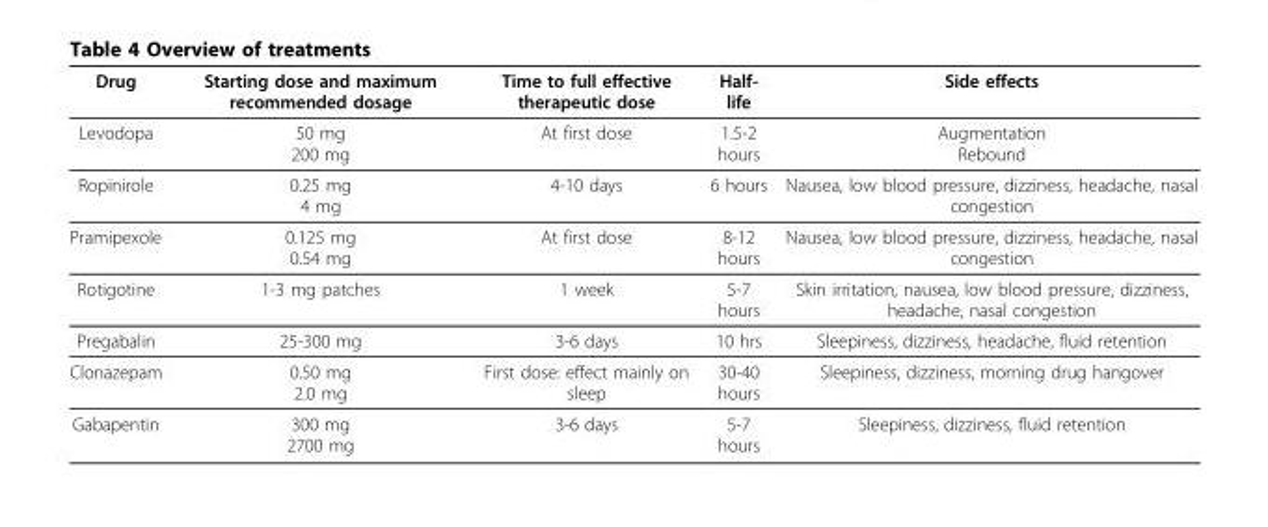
<table><thead><tr><td>Drug</td><td>Starting dose and maximum recommended dosage</td><td>Time to full effective therapeutic dose</td><td>Half- life</td><td>Side effects</td></tr></thead><tbody><tr><td>Levodopa</td><td>50 mg 200 mg</td><td>At first dose</td><td>1.5-2 hours</td><td>Augmentation Rebound</td></tr><tr><td>Ropinirole</td><td>0.25 mg 4 mg</td><td>4-10 days</td><td>6 hours</td><td>Nausea, low blood pressure, dizziness, headache, nasal congestion</td></tr><tr><td>Pramipexole</td><td>0.125 mg 0.54 mg</td><td>At first dose</td><td>8-12 hours</td><td>Nausea, low blood pressure, dizziness, headache, nasal congestion</td></tr><tr><td>Rotigotine</td><td>1-3 mg patches</td><td>1 week</td><td>5-7 hours</td><td>Skin irritation, nausea, low blood pressure, dizziness, headache, nasal congestion</td></tr><tr><td>Pregabalin</td><td>25-300 mg</td><td>3-6 days</td><td>10 hrs</td><td>Sleepiness, dizziness, headache, fluid retention</td></tr><tr><td>Clonazepam</td><td>0.50 mg 2.0 mg</td><td>First dose: effect mainly on sleep</td><td>30-40 hours</td><td>Sleepiness, dizziness, morning drug hangover</td></tr><tr><td>Gabapentin</td><td>300 mg 2700 mg</td><td>3-6 days</td><td>5-7 hours</td><td>Sleepiness, dizziness, fluid retention</td></tr></tbody></table>